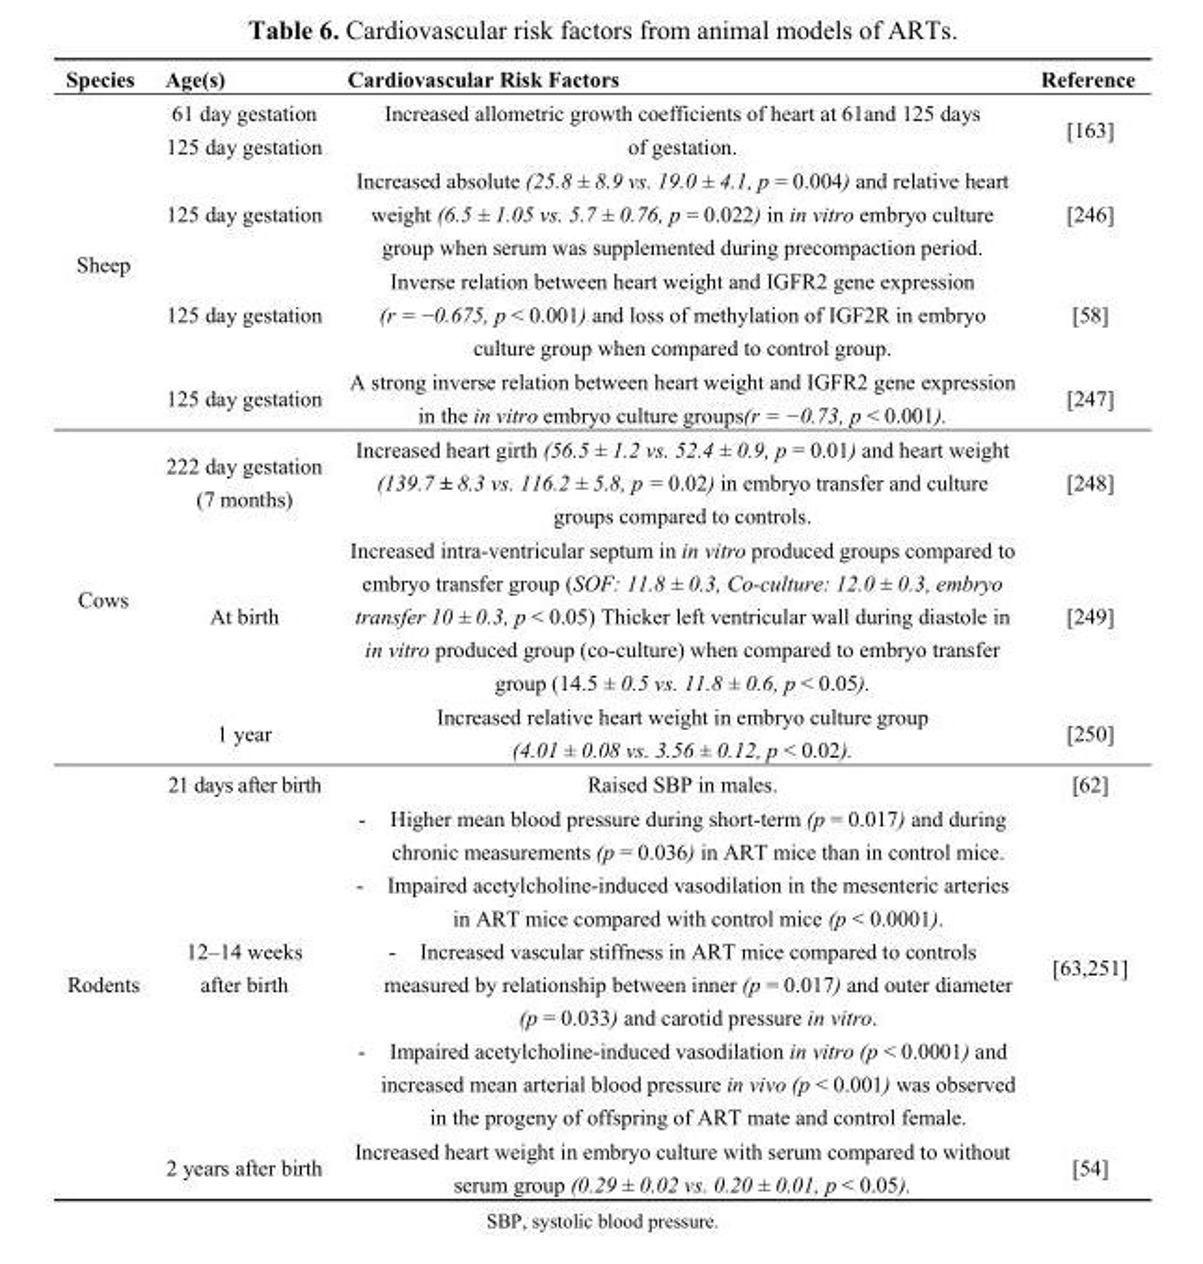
<table><thead><tr><td>Species</td><td>Age(s)</td><td>Cardiovascular Risk Factors</td><td>Reference</td></tr></thead><tbody><tr><td rowspan="4">Sheep</td><td>61 day gestation 125 day gestation</td><td>Increased allometric growth coefficients of heart at 61and 125 days of gestation.</td><td>[163]</td></tr><tr><td>125 day gestation</td><td>Increased absolute (25.8 ± 8.9 vs. 19.0 ± 4.1, p = 0.004) and relative heart weight (6.5 ± 1.05 vs. 5.7 ± 0.76, p = 0.022) in in vitro embryo culture group when serum was supplemented during precompaction period.</td><td>[246]</td></tr><tr><td>125 day gestation</td><td>Inverse relation between heart weight and IGFR2 gene expression (r = −0.675, p &lt; 0.001) and loss of methylation of IGF2R in embryo culture group when compared to control group.</td><td>[58]</td></tr><tr><td>125 day gestation</td><td>A strong inverse relation between heart weight and IGFR2 gene expression in the in vitro embryo culture groups(r = −0.73, p &lt; 0.001).</td><td>[247]</td></tr><tr><td rowspan="3">Cows</td><td>222 day gestation (7 months)</td><td>Increased heart girth (56.5 ± 1.2 vs. 52.4 ± 0.9, p = 0.01) and heart weight (139.7 ± 8.3 vs. 116.2 ± 5.8, p = 0.02) in embryo transfer and culture groups compared to controls.</td><td>[248]</td></tr><tr><td>At birth</td><td>Increased intra-ventricular septum in in vitro produced groups compared to embryo transfer group (SOF: 11.8 ± 0.3, Co-culture: 12.0 ± 0.3, embryo transfer 10 ± 0.3, p &lt; 0.05) Thicker left ventricular wall during diastole in in vitro produced group (co-culture) when compared to embryo transfer group (14.5 ± 0.5 vs. 11.8 ± 0.6, p &lt; 0.05).</td><td>[249]</td></tr><tr><td>1 year</td><td>Increased relative heart weight in embryo culture group (4.01 ± 0.08 vs. 3.56 ± 0.12, p &lt; 0.02).</td><td>[250]</td></tr><tr><td rowspan="3">Rodents</td><td>21 days after birth</td><td>Raised SBP in males.</td><td>[62]</td></tr><tr><td>12–14 weeks after birth</td><td>- Higher mean blood pressure during short-term (p = 0.017) and during chronic measurements (p = 0.036) in ART mice than in control mice. - Impaired acetylcholine-induced vasodilation in the mesenteric arteries in ART mice compared with control mice (p &lt; 0.0001). - Increased vascular stiffness in ART mice compared to controls measured by relationship between inner (p = 0.017) and outer diameter (p = 0.033) and carotid pressure in vitro. - Impaired acetylcholine-induced vasodilation in vitro (p &lt; 0.0001) and increased mean arterial blood pressure in vivo (p &lt; 0.001) was observed in the progeny of offspring of ART mate and control female.</td><td>[63,251]</td></tr><tr><td>2 years after birth</td><td>Increased heart weight in embryo culture with serum compared to without serum group (0.29 ± 0.02 vs. 0.20 ± 0.01, p &lt; 0.05).</td><td>[54]</td></tr></tbody></table>